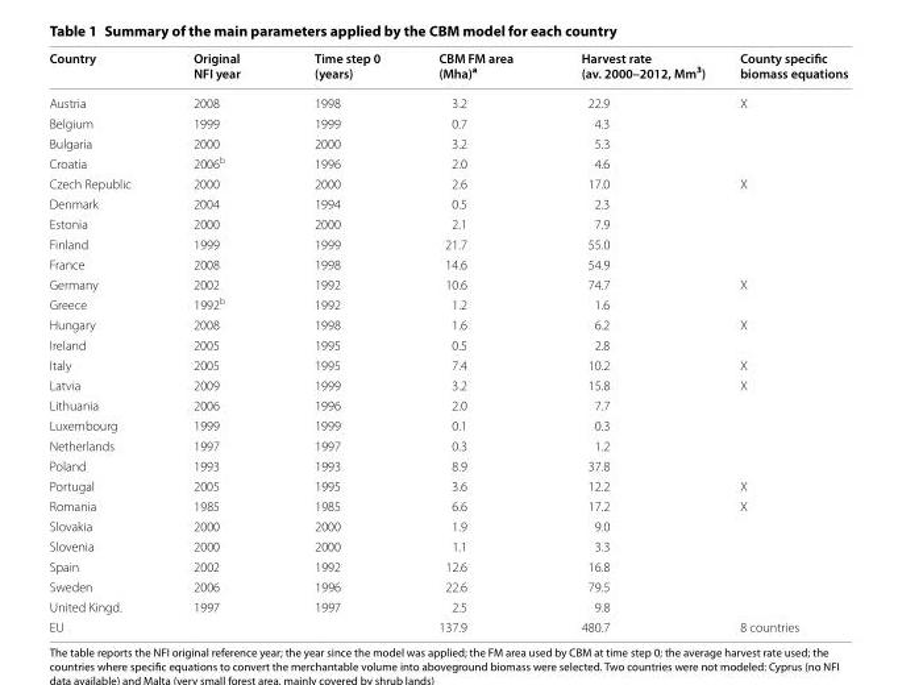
<table><thead><tr><td>Country</td><td>Original NFI year</td><td>Time step 0 (years)</td><td>CBM FM area (Mha)<sup>a</sup></td><td>Harvest rate (av. 2000–2012, Mm<sup>3</sup>)</td><td>County specific biomass equations</td></tr></thead><tbody><tr><td>Austria</td><td>2008</td><td>1998</td><td>3.2</td><td>22.9</td><td>X</td></tr><tr><td>Belgium</td><td>1999</td><td>1999</td><td>0.7</td><td>4.3</td><td></td></tr><tr><td>Bulgaria</td><td>2000</td><td>2000</td><td>3.2</td><td>5.3</td><td></td></tr><tr><td>Croatia</td><td>2006<sup>b</sup></td><td>1996</td><td>2.0</td><td>4.6</td><td></td></tr><tr><td>Czech Republic</td><td>2000</td><td>2000</td><td>2.6</td><td>17.0</td><td>X</td></tr><tr><td>Denmark</td><td>2004</td><td>1994</td><td>0.5</td><td>2.3</td><td></td></tr><tr><td>Estonia</td><td>2000</td><td>2000</td><td>2.1</td><td>7.9</td><td></td></tr><tr><td>Finland</td><td>1999</td><td>1999</td><td>21.7</td><td>55.0</td><td></td></tr><tr><td>France</td><td>2008</td><td>1998</td><td>14.6</td><td>54.9</td><td></td></tr><tr><td>Germany</td><td>2002</td><td>1992</td><td>10.6</td><td>74.7</td><td>X</td></tr><tr><td>Greece</td><td>1992<sup>b</sup></td><td>1992</td><td>1.2</td><td>1.6</td><td></td></tr><tr><td>Hungary</td><td>2008</td><td>1998</td><td>1.6</td><td>6.2</td><td>X</td></tr><tr><td>Ireland</td><td>2005</td><td>1995</td><td>0.5</td><td>2.8</td><td></td></tr><tr><td>Italy</td><td>2005</td><td>1995</td><td>7.4</td><td>10.2</td><td>X</td></tr><tr><td>Latvia</td><td>2009</td><td>1999</td><td>3.2</td><td>15.8</td><td>X</td></tr><tr><td>Lithuania</td><td>2006</td><td>1996</td><td>2.0</td><td>7.7</td><td></td></tr><tr><td>Luxembourg</td><td>1999</td><td>1999</td><td>0.1</td><td>0.3</td><td></td></tr><tr><td>Netherlands</td><td>1997</td><td>1997</td><td>0.3</td><td>1.2</td><td></td></tr><tr><td>Poland</td><td>1993</td><td>1993</td><td>8.9</td><td>37.8</td><td></td></tr><tr><td>Portugal</td><td>2005</td><td>1995</td><td>3.6</td><td>12.2</td><td>X</td></tr><tr><td>Romania</td><td>1985</td><td>1985</td><td>6.6</td><td>17.2</td><td>X</td></tr><tr><td>Slovakia</td><td>2000</td><td>2000</td><td>1.9</td><td>9.0</td><td></td></tr><tr><td>Slovenia</td><td>2000</td><td>2000</td><td>1.1</td><td>3.3</td><td></td></tr><tr><td>Spain</td><td>2002</td><td>1992</td><td>12.6</td><td>16.8</td><td></td></tr><tr><td>Sweden</td><td>2006</td><td>1996</td><td>22.6</td><td>79.5</td><td></td></tr><tr><td>United Kingd.</td><td>1997</td><td>1997</td><td>2.5</td><td>9.8</td><td></td></tr><tr><td>EU</td><td></td><td></td><td>137.9</td><td>480.7</td><td>8 countries</td></tr></tbody></table>